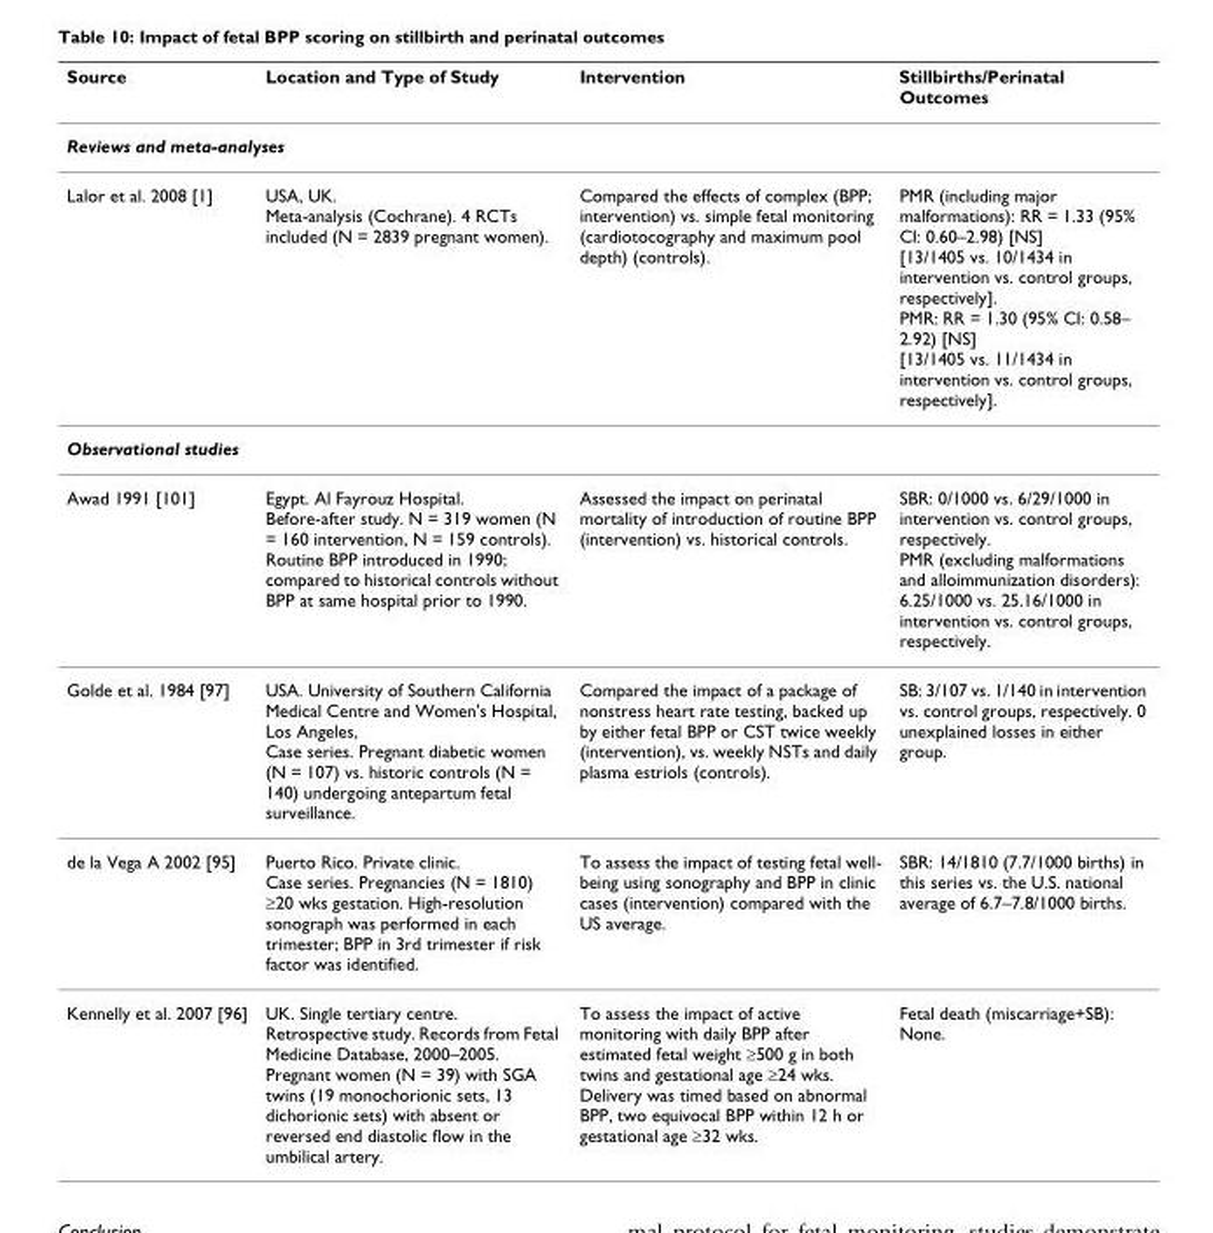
<table><thead><tr><td>Source</td><td>Location and Type of Study</td><td>Intervention</td><td>Stillbirths/Perinatal Outcomes</td></tr></thead><tbody><tr><td colspan="4">Reviews and meta-analyses</td></tr><tr><td>Lalor et al. 2008 [1]</td><td>USA, UK. Meta-analysis (Cochrane). 4 RCTs included (N = 2839 pregnant women).</td><td>Compared the effects of complex (BPP; intervention) vs. simple fetal monitoring (cardiotocography and maximum pool depth) (controls).</td><td>PMR (including major malformations): RR = 1.33 (95% CI: 0.60–2.98) [NS] [13/1405 vs. 10/1434 in intervention vs. control groups, respectively]. PMR: RR = 1.30 (95% CI: 0.58– 2.92) [NS] [13/1405 vs. 11/1434 in intervention vs. control groups, respectively].</td></tr><tr><td colspan="4">Observational studies</td></tr><tr><td>Awad 1991 [101]</td><td>Egypt. Al Fayrouz Hospital. Before-after study. N = 319 women (N = 160 intervention, N = 159 controls). Routine BPP introduced in 1990; compared to historical controls without BPP at same hospital prior to 1990.</td><td>Assessed the impact on perinatal mortality of introduction of routine BPP (intervention) vs. historical controls.</td><td>SBR: 0/1000 vs. 6/29/1000 in intervention vs. control groups, respectively. PMR (excluding malformations and alloimmunization disorders): 6.25/1000 vs. 25.16/1000 in intervention vs. control groups, respectively.</td></tr><tr><td>Golde et al. 1984 [97]</td><td>USA. University of Southern California Medical Centre and Women&#x27;s Hospital, Los Angeles, Case series. Pregnant diabetic women (N = 107) vs. historic controls (N = 140) undergoing antepartum fetal surveillance.</td><td>Compared the impact of a package of nonstress heart rate testing, backed up by either fetal BPP or CST twice weekly (intervention), vs. weekly NSTs and daily plasma estriols (controls).</td><td>SB: 3/107 vs. 1/140 in intervention vs. control groups, respectively. 0 unexplained losses in either group.</td></tr><tr><td>de la Vega A 2002 [95]</td><td>Puerto Rico. Private clinic. Case series. Pregnancies (N = 1810) ≥20 wks gestation. High-resolution sonograph was performed in each trimester; BPP in 3rd trimester if risk factor was identified.</td><td>To assess the impact of testing fetal well- being using sonography and BPP in clinic cases (intervention) compared with the US average.</td><td>SBR: 14/1810 (7.7/1000 births) in this series vs. the U.S. national average of 6.7–7.8/1000 births.</td></tr><tr><td>Kennelly et al. 2007 [96]</td><td>UK. Single tertiary centre. Retrospective study. Records from Fetal Medicine Database, 2000–2005. Pregnant women (N = 39) with SGA twins (19 monochorionic sets, 13 dichorionic sets) with absent or reversed end diastolic flow in the umbilical artery.</td><td>To assess the impact of active monitoring with daily BPP after estimated fetal weight ≥500 g in both twins and gestational age ≥24 wks. Delivery was timed based on abnormal BPP, two equivocal BPP within 12 h or gestational age ≥32 wks.</td><td>Fetal death (miscarriage+SB): None.</td></tr></tbody></table>